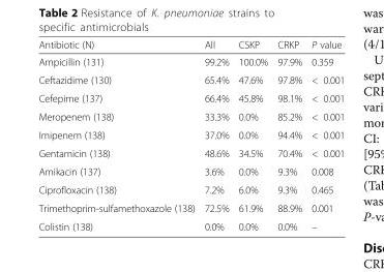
<table><thead><tr><td>Antibiotic (N)</td><td>All</td><td>CSKP</td><td>CRKP</td><td>P value</td></tr></thead><tbody><tr><td>Ampicillin (131)</td><td>99.2%</td><td>100.0%</td><td>97.9%</td><td>0.359</td></tr><tr><td>Ceftazidime (130)</td><td>65.4%</td><td>47.6%</td><td>97.8%</td><td>&lt; 0.001</td></tr><tr><td>Cefepime (137)</td><td>66.4%</td><td>45.8%</td><td>98.1%</td><td>&lt; 0.001</td></tr><tr><td>Meropenem (138)</td><td>33.3%</td><td>0.0%</td><td>85.2%</td><td>&lt; 0.001</td></tr><tr><td>Imipenem (138)</td><td>37.0%</td><td>0.0%</td><td>94.4%</td><td>&lt; 0.001</td></tr><tr><td>Gentamicin (138)</td><td>48.6%</td><td>34.5%</td><td>70.4%</td><td>&lt; 0.001</td></tr><tr><td>Amikacin (137)</td><td>3.6%</td><td>0.0%</td><td>9.3%</td><td>0.008</td></tr><tr><td>Ciprofloxacin (138)</td><td>7.2%</td><td>6.0%</td><td>9.3%</td><td>0.465</td></tr><tr><td>Trimethoprim-sulfamethoxazole (138)</td><td>72.5%</td><td>61.9%</td><td>88.9%</td><td>0.001</td></tr><tr><td>Colistin (138)</td><td>0.0%</td><td>0.0%</td><td>0.0%</td><td>–</td></tr></tbody></table>